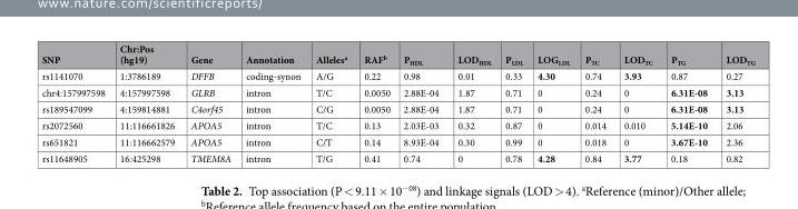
<table><thead><tr><td>SNP</td><td>Chr:Pos (hg19)</td><td>Gene</td><td>Annotation</td><td>Alleles<sup>a</sup></td><td>RAF<sup>b</sup></td><td>P<sub>HDL</sub></td><td>LOD<sub>HDL</sub></td><td>P<sub>LDL</sub></td><td>LOG<sub>LDL</sub></td><td>P<sub>TC</sub></td><td>LOD<sub>TC</sub></td><td>P<sub>TG</sub></td><td>LOD<sub>TG</sub></td></tr></thead><tbody><tr><td>rs1141070</td><td>1:3786189</td><td>DFFB</td><td>coding-synon</td><td>A/G</td><td>0.22</td><td>0.98</td><td>0.01</td><td>0.33</td><td>4.30</td><td>0.74</td><td>3.93</td><td>0.87</td><td>0.27</td></tr><tr><td>chr4:157997598</td><td>4:157997598</td><td>GLRB</td><td>intron</td><td>T/C</td><td>0.0050</td><td>2.88E-04</td><td>1.87</td><td>0.71</td><td>0</td><td>0.24</td><td>0</td><td>6.31E-08</td><td>3.13</td></tr><tr><td>rs189547099</td><td>4:159814881</td><td>C4orf45</td><td>intron</td><td>C/G</td><td>0.0050</td><td>2.88E-04</td><td>1.87</td><td>0.71</td><td>0</td><td>0.24</td><td>0</td><td>6.31E-08</td><td>3.13</td></tr><tr><td>rs2072560</td><td>11:116661826</td><td>APOA5</td><td>intron</td><td>T/C</td><td>0.13</td><td>2.03E-03</td><td>0.32</td><td>0.87</td><td>0</td><td>0.014</td><td>0.010</td><td>5.14E-10</td><td>2.06</td></tr><tr><td>rs651821</td><td>11:116662579</td><td>APOA5</td><td>intron</td><td>C/T</td><td>0.14</td><td>8.93E-04</td><td>0.30</td><td>0.99</td><td>0</td><td>0.018</td><td>0</td><td>3.67E-10</td><td>2.36</td></tr><tr><td>rs11648905</td><td>16:425298</td><td>TMEM8A</td><td>intron</td><td>T/G</td><td>0.41</td><td>0.74</td><td>0</td><td>0.78</td><td>4.28</td><td>0.84</td><td>3.77</td><td>0.18</td><td>0.82</td></tr></tbody></table>